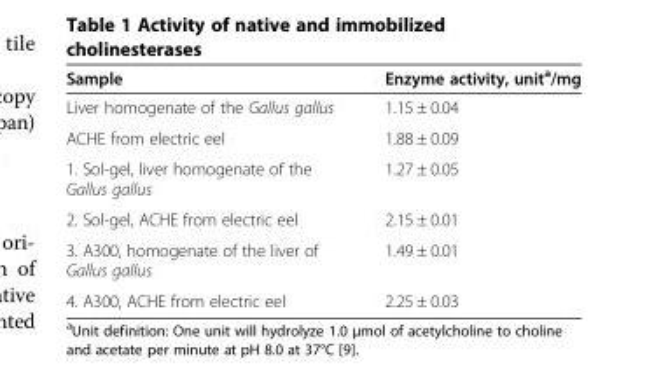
<table><thead><tr><td>Sample</td><td>Enzyme activity, unit<sup>a</sup>/mg</td></tr></thead><tbody><tr><td>Liver homogenate of the Gallus gallus</td><td>1.15 ± 0.04</td></tr><tr><td>ACHE from electric eel</td><td>1.88 ± 0.09</td></tr><tr><td>1. Sol-gel, liver homogenate of the Gallus gallus</td><td>1.27 ± 0.05</td></tr><tr><td>2. Sol-gel, ACHE from electric eel</td><td>2.15 ± 0.01</td></tr><tr><td>3. A300, homogenate of the liver of Gallus gallus</td><td>1.49 ± 0.01</td></tr><tr><td>4. A300, ACHE from electric eel</td><td>2.25 ± 0.03</td></tr></tbody></table>